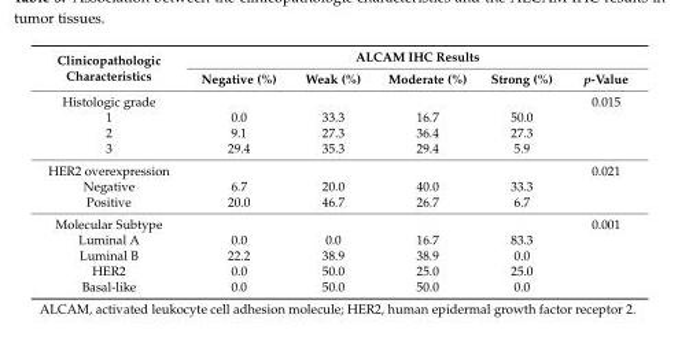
<table><thead><tr><td rowspan="2">Clinicopathologic Characteristics</td><td colspan="5">ALCAM IHC Results</td></tr><tr><td>Negative (%)</td><td>Weak (%)</td><td>Moderate (%)</td><td>Strong (%)</td><td>p-Value</td></tr></thead><tbody><tr><td>Histologic grade</td><td></td><td></td><td></td><td></td><td>0.015</td></tr><tr><td>1</td><td>0.0</td><td>33.3</td><td>16.7</td><td>50.0</td><td></td></tr><tr><td>2</td><td>9.1</td><td>27.3</td><td>36.4</td><td>27.3</td><td></td></tr><tr><td>3</td><td>29.4</td><td>35.3</td><td>29.4</td><td>5.9</td><td></td></tr><tr><td>HER2 overexpression</td><td></td><td></td><td></td><td></td><td>0.021</td></tr><tr><td>Negative</td><td>6.7</td><td>20.0</td><td>40.0</td><td>33.3</td><td></td></tr><tr><td>Positive</td><td>20.0</td><td>46.7</td><td>26.7</td><td>6.7</td><td></td></tr><tr><td>Molecular Subtype</td><td></td><td></td><td></td><td></td><td>0.001</td></tr><tr><td>Luminal A</td><td>0.0</td><td>0.0</td><td>16.7</td><td>83.3</td><td></td></tr><tr><td>Luminal B</td><td>22.2</td><td>38.9</td><td>38.9</td><td>0.0</td><td></td></tr><tr><td>HER2</td><td>0.0</td><td>50.0</td><td>25.0</td><td>25.0</td><td></td></tr><tr><td>Basal-like</td><td>0.0</td><td>50.0</td><td>50.0</td><td>0.0</td><td></td></tr></tbody></table>